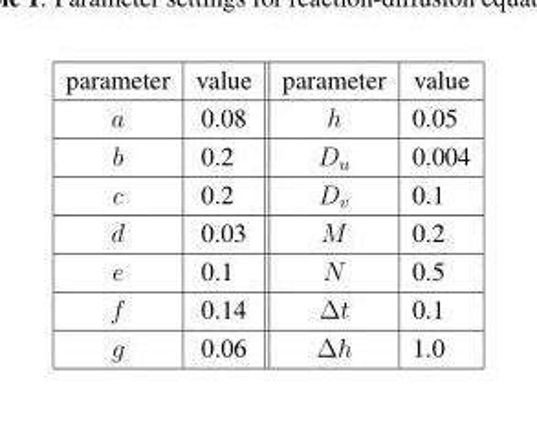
<table><thead><tr><td>parameter</td><td>value</td><td>parameter</td><td>value</td></tr></thead><tbody><tr><td>a</td><td>0.08</td><td>h</td><td>0.05</td></tr><tr><td>b</td><td>0.2</td><td>D<sub>u</sub></td><td>0.004</td></tr><tr><td>c</td><td>0.2</td><td>D<sub>v</sub></td><td>0.1</td></tr><tr><td>d</td><td>0.03</td><td>M</td><td>0.2</td></tr><tr><td>e</td><td>0.1</td><td>N</td><td>0.5</td></tr><tr><td>f</td><td>0.14</td><td>∆t</td><td>0.1</td></tr><tr><td>g</td><td>0.06</td><td>∆h</td><td>1.0</td></tr></tbody></table>